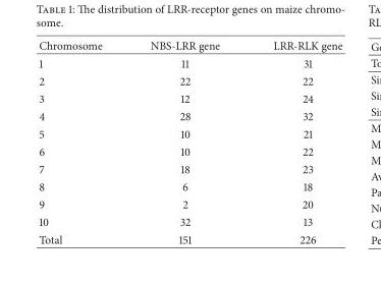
<table><thead><tr><td>Chromosome</td><td>NBS-LRR gene</td><td>LRR-RLK gene</td></tr></thead><tbody><tr><td>1</td><td>11</td><td>31</td></tr><tr><td>2</td><td>22</td><td>22</td></tr><tr><td>3</td><td>12</td><td>24</td></tr><tr><td>4</td><td>28</td><td>32</td></tr><tr><td>5</td><td>10</td><td>21</td></tr><tr><td>6</td><td>10</td><td>22</td></tr><tr><td>7</td><td>18</td><td>23</td></tr><tr><td>8</td><td>6</td><td>18</td></tr><tr><td>9</td><td>2</td><td>20</td></tr><tr><td>10</td><td>32</td><td>13</td></tr><tr><td>Total</td><td>151</td><td>226</td></tr></tbody></table>